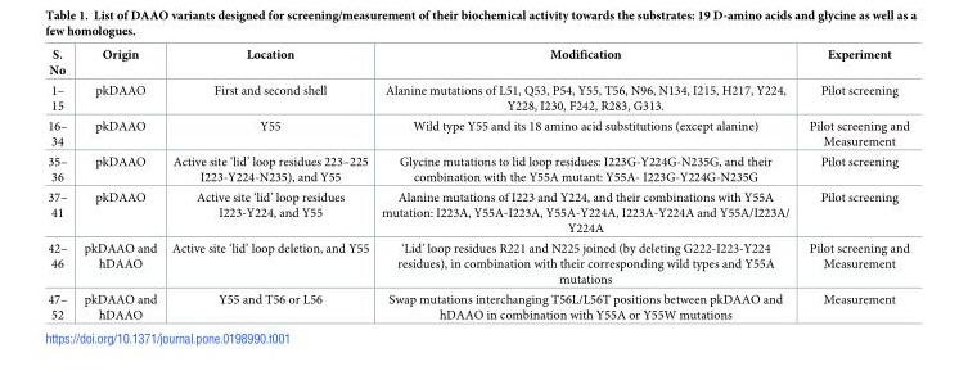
<table><thead><tr><td>S. No</td><td>Origin</td><td>Location</td><td>Modification</td><td>Experiment</td></tr></thead><tbody><tr><td>1– 15</td><td>pkDAAO</td><td>First and second shell</td><td>Alanine mutations of L51, Q53, P54, Y55, T56, N96, N134, I215, H217, Y224, Y228, I230, F242, R283, G313.</td><td>Pilot screening</td></tr><tr><td>16– 34</td><td>pkDAAO</td><td>Y55</td><td>Wild type Y55 and its 18 amino acid substitutions (except alanine)</td><td>Pilot screening and Measurement</td></tr><tr><td>35– 36</td><td>pkDAAO</td><td>Active site ‘lid’ loop residues 223–225 I223-Y224-N235), and Y55</td><td>Glycine mutations to lid loop residues: I223G-Y224G-N235G, and their combination with the Y55A mutant: Y55A- I223G-Y224G-N235G</td><td>Pilot screening</td></tr><tr><td>37– 41</td><td>pkDAAO</td><td>Active site ‘lid’ loop residues I223-Y224, and Y55</td><td>Alanine mutations of I223 and Y224, and their combinations with Y55A mutation: I223A, Y55A-I223A, Y55A-Y224A, I223A-Y224A and Y55A/I223A/ Y224A</td><td>Pilot screening</td></tr><tr><td>42– 46</td><td>pkDAAO and hDAAO</td><td>Active site ‘lid’ loop deletion, and Y55</td><td>‘Lid’ loop residues R221 and N225 joined (by deleting G222-I223-Y224 residues), in combination with their corresponding wild types and Y55A mutations</td><td>Pilot screening and Measurement</td></tr><tr><td>47– 52</td><td>pkDAAO and hDAAO</td><td>Y55 and T56 or L56</td><td>Swap mutations interchanging T56L/L56T positions between pkDAAO and hDAAO in combination with Y55A or Y55W mutations</td><td>Measurement</td></tr></tbody></table>